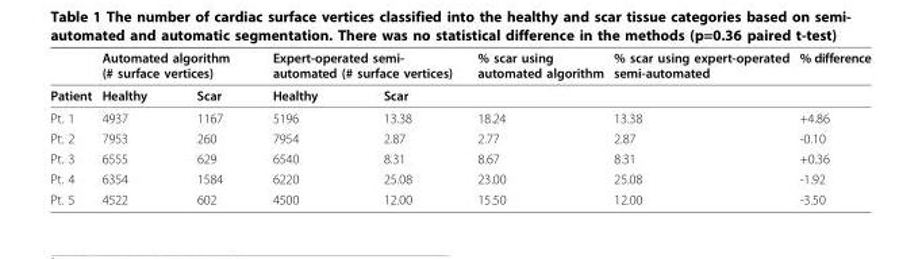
<table><thead><tr><td rowspan="2">Patient</td><td colspan="2">Automated algorithm (# surface vertices)</td><td colspan="2">Expert-operated semi- automated (# surface vertices)</td><td rowspan="2">% scar using automated algorithm</td><td rowspan="2">% scar using expert-operated semi-automated</td><td rowspan="2">% difference</td></tr><tr><td>Healthy</td><td>Scar</td><td>Healthy</td><td>Scar</td></tr></thead><tbody><tr><td>Pt. 1</td><td>4937</td><td>1167</td><td>5196</td><td>13.38</td><td>18.24</td><td>13.38</td><td>+4.86</td></tr><tr><td>Pt. 2</td><td>7953</td><td>260</td><td>7954</td><td>2.87</td><td>2.77</td><td>2.87</td><td>-0.10</td></tr><tr><td>Pt. 3</td><td>6555</td><td>629</td><td>6540</td><td>8.31</td><td>8.67</td><td>8.31</td><td>+0.36</td></tr><tr><td>Pt. 4</td><td>6354</td><td>1584</td><td>6220</td><td>25.08</td><td>23.00</td><td>25.08</td><td>-1.92</td></tr><tr><td>Pt. 5</td><td>4522</td><td>602</td><td>4500</td><td>12.00</td><td>15.50</td><td>12.00</td><td>-3.50</td></tr></tbody></table>